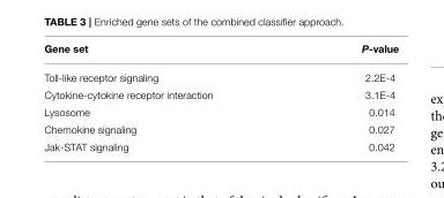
<table><thead><tr><td>Gene set</td><td>P-value</td></tr></thead><tbody><tr><td>Toll-like receptor signaling</td><td>2.2E-4</td></tr><tr><td>Cytokine-cytokine receptor interaction</td><td>3.1E-4</td></tr><tr><td>Lysosome</td><td>0.014</td></tr><tr><td>Chemokine signaling</td><td>0.027</td></tr><tr><td>Jak-STAT signaling</td><td>0.042</td></tr></tbody></table>